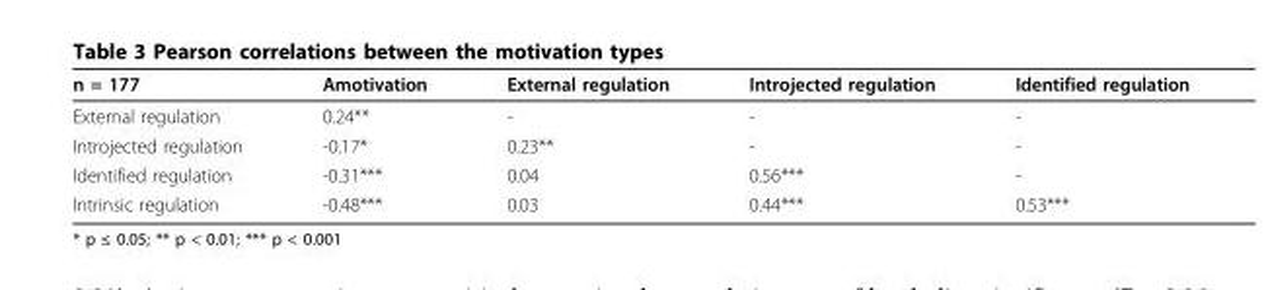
<table><thead><tr><td>n = 177</td><td>Amotivation</td><td>External regulation</td><td>Introjected regulation</td><td>Identified regulation</td></tr></thead><tbody><tr><td>External regulation</td><td>0.24**</td><td>-</td><td>-</td><td>-</td></tr><tr><td>Introjected regulation</td><td>-0.17*</td><td>0.23**</td><td>-</td><td>-</td></tr><tr><td>Identified regulation</td><td>-0.31***</td><td>0.04</td><td>0.56***</td><td>-</td></tr><tr><td>Intrinsic regulation</td><td>-0.48***</td><td>0.03</td><td>0.44***</td><td>0.53***</td></tr></tbody></table>